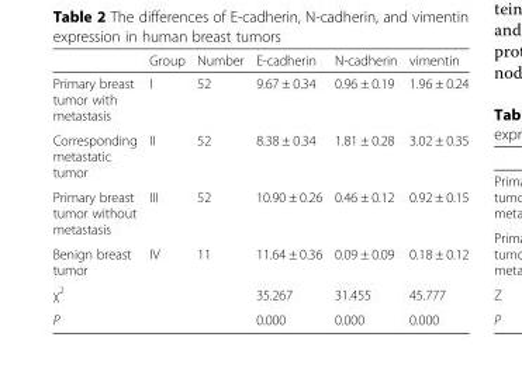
<table><thead><tr><td></td><td>Group</td><td>Number</td><td>E-cadherin</td><td>N-cadherin</td><td>vimentin</td></tr></thead><tbody><tr><td>Primary breast tumor with metastasis</td><td>I</td><td>52</td><td>9.67 ± 0.34</td><td>0.96 ± 0.19</td><td>1.96 ± 0.24</td></tr><tr><td>Corresponding metastatic tumor</td><td>II</td><td>52</td><td>8.38 ± 0.34</td><td>1.81 ± 0.28</td><td>3.02 ± 0.35</td></tr><tr><td>Primary breast tumor without metastasis</td><td>III</td><td>52</td><td>10.90 ± 0.26</td><td>0.46 ± 0.12</td><td>0.92 ± 0.15</td></tr><tr><td>Benign breast tumor</td><td>IV</td><td>11</td><td>11.64 ± 0.36</td><td>0.09 ± 0.09</td><td>0.18 ± 0.12</td></tr><tr><td>χ<sup>2</sup></td><td></td><td></td><td>35.267</td><td>31.455</td><td>45.777</td></tr><tr><td>P</td><td></td><td></td><td>0.000</td><td>0.000</td><td>0.000</td></tr></tbody></table>